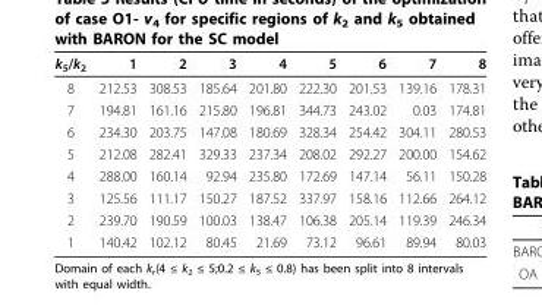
<table><thead><tr><td>k<sub>5</sub>/k<sub>2</sub></td><td>1</td><td>2</td><td>3</td><td>4</td><td>5</td><td>6</td><td>7</td><td>8</td></tr></thead><tbody><tr><td>8</td><td>212.53</td><td>308.53</td><td>185.64</td><td>201.80</td><td>222.30</td><td>201.53</td><td>139.16</td><td>178.31</td></tr><tr><td>7</td><td>194.81</td><td>161.16</td><td>215.80</td><td>196.81</td><td>344.73</td><td>243.02</td><td>0.03</td><td>174.81</td></tr><tr><td>6</td><td>234.30</td><td>203.75</td><td>147.08</td><td>180.69</td><td>328.34</td><td>254.42</td><td>304.11</td><td>280.53</td></tr><tr><td>5</td><td>212.08</td><td>282.41</td><td>329.33</td><td>237.34</td><td>208.02</td><td>292.27</td><td>200.00</td><td>154.62</td></tr><tr><td>4</td><td>288.00</td><td>160.14</td><td>92.94</td><td>235.80</td><td>172.69</td><td>147.14</td><td>56.11</td><td>150.28</td></tr><tr><td>3</td><td>125.56</td><td>111.17</td><td>150.27</td><td>187.52</td><td>337.97</td><td>158.16</td><td>112.66</td><td>264.12</td></tr><tr><td>2</td><td>239.70</td><td>190.59</td><td>100.03</td><td>138.47</td><td>106.38</td><td>205.14</td><td>119.39</td><td>246.34</td></tr><tr><td>1</td><td>140.42</td><td>102.12</td><td>80.45</td><td>21.69</td><td>73.12</td><td>96.61</td><td>89.94</td><td>80.03</td></tr></tbody></table>